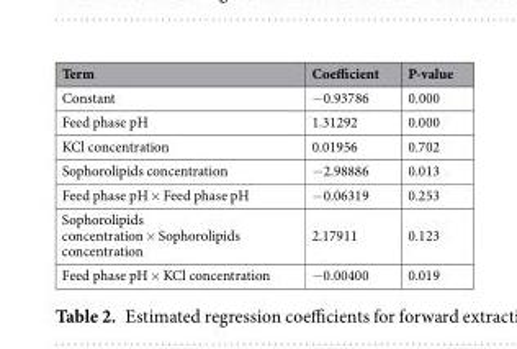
<table><thead><tr><td>Term</td><td>Coefficient</td><td>P-value</td></tr></thead><tbody><tr><td>Constant</td><td>−0.93786</td><td>0.000</td></tr><tr><td>Feed phase pH</td><td>1.31292</td><td>0.000</td></tr><tr><td>KCl concentration</td><td>0.01956</td><td>0.702</td></tr><tr><td>Sophorolipids concentration</td><td>−2.98886</td><td>0.013</td></tr><tr><td>Feed phase pH × Feed phase pH</td><td>−0.06319</td><td>0.253</td></tr><tr><td>Sophorolipids concentration × Sophorolipids concentration</td><td>2.17911</td><td>0.123</td></tr><tr><td>Feed phase pH × KCl concentration</td><td>−0.00400</td><td>0.019</td></tr></tbody></table>